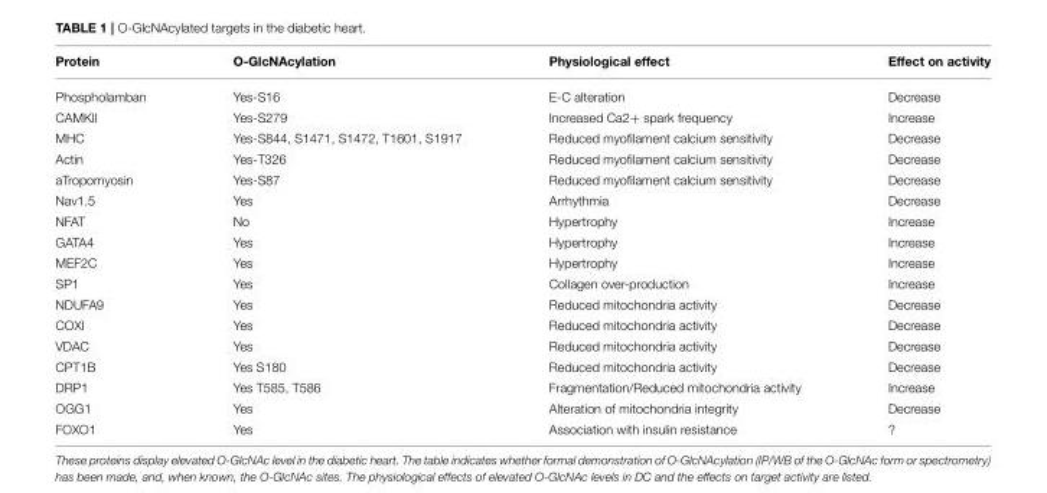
<table><thead><tr><td>Protein</td><td>O-GlcNAcylation</td><td>Physiological effect</td><td>Effect on activity</td></tr></thead><tbody><tr><td>Phospholamban</td><td>Yes-S16</td><td>E-C alteration</td><td>Decrease</td></tr><tr><td>CAMKII</td><td>Yes-S279</td><td>Increased Ca2+ spark frequency</td><td>Increase</td></tr><tr><td>MHC</td><td>Yes-S844, S1471, S1472, T1601, S1917</td><td>Reduced myofilament calcium sensitivity</td><td>Decrease</td></tr><tr><td>Actin</td><td>Yes-T326</td><td>Reduced myofilament calcium sensitivity</td><td>Decrease</td></tr><tr><td>aTropomyosin</td><td>Yes-S87</td><td>Reduced myofilament calcium sensitivity</td><td>Decrease</td></tr><tr><td>Nav1.5</td><td>Yes</td><td>Arrhythmia</td><td>Decrease</td></tr><tr><td>NFAT</td><td>No</td><td>Hypertrophy</td><td>Increase</td></tr><tr><td>GATA4</td><td>Yes</td><td>Hypertrophy</td><td>Increase</td></tr><tr><td>MEF2C</td><td>Yes</td><td>Hypertrophy</td><td>Increase</td></tr><tr><td>SP1</td><td>Yes</td><td>Collagen over-production</td><td>Increase</td></tr><tr><td>NDUFA9</td><td>Yes</td><td>Reduced mitochondria activity</td><td>Decrease</td></tr><tr><td>COXI</td><td>Yes</td><td>Reduced mitochondria activity</td><td>Decrease</td></tr><tr><td>VDAC</td><td>Yes</td><td>Reduced mitochondria activity</td><td>Decrease</td></tr><tr><td>CPT1B</td><td>Yes S180</td><td>Reduced mitochondria activity</td><td>Decrease</td></tr><tr><td>DRP1</td><td>Yes T585, T586</td><td>Fragmentation/Reduced mitochondria activity</td><td>Increase</td></tr><tr><td>OGG1</td><td>Yes</td><td>Alteration of mitochondria integrity</td><td>Decrease</td></tr><tr><td>FOXO1</td><td>Yes</td><td>Association with insulin resistance</td><td>?</td></tr></tbody></table>